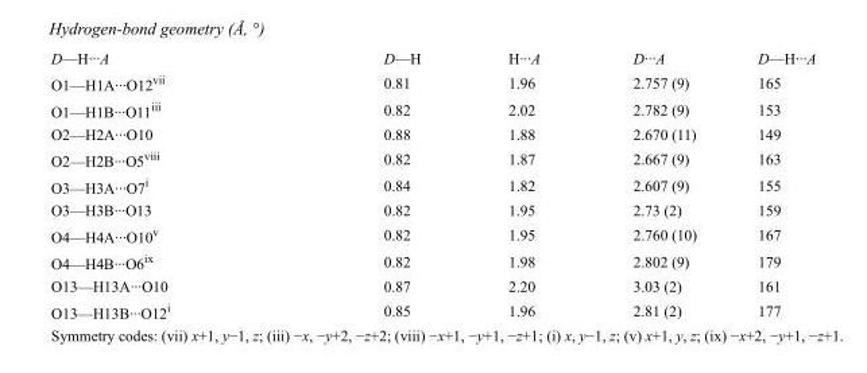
<table><tbody><tr><td>D—H···A</td><td>D—H</td><td>H···A</td><td>D···A</td><td>D—H···A</td></tr><tr><td>O1—H1A···O12<sup>vii</sup></td><td>0.81</td><td>1.96</td><td>2.757 (9)</td><td>165</td></tr><tr><td>O1—H1B···O11<sup>iii</sup></td><td>0.82</td><td>2.02</td><td>2.782 (9)</td><td>153</td></tr><tr><td>O2—H2A···O10</td><td>0.88</td><td>1.88</td><td>2.670 (11)</td><td>149</td></tr><tr><td>O2—H2B···O5<sup>viii</sup></td><td>0.82</td><td>1.87</td><td>2.667 (9)</td><td>163</td></tr><tr><td>O3—H3A···O7<sup>i</sup></td><td>0.84</td><td>1.82</td><td>2.607 (9)</td><td>155</td></tr><tr><td>O3—H3B···O13</td><td>0.82</td><td>1.95</td><td>2.73 (2)</td><td>159</td></tr><tr><td>O4—H4A···O10<sup>v</sup></td><td>0.82</td><td>1.95</td><td>2.760 (10)</td><td>167</td></tr><tr><td>O4—H4B···O6<sup>ix</sup></td><td>0.82</td><td>1.98</td><td>2.802 (9)</td><td>179</td></tr><tr><td>O13—H13A···O10</td><td>0.87</td><td>2.20</td><td>3.03 (2)</td><td>161</td></tr><tr><td>O13—H13B···O12<sup>i</sup></td><td>0.85</td><td>1.96</td><td>2.81 (2)</td><td>177</td></tr></tbody></table>